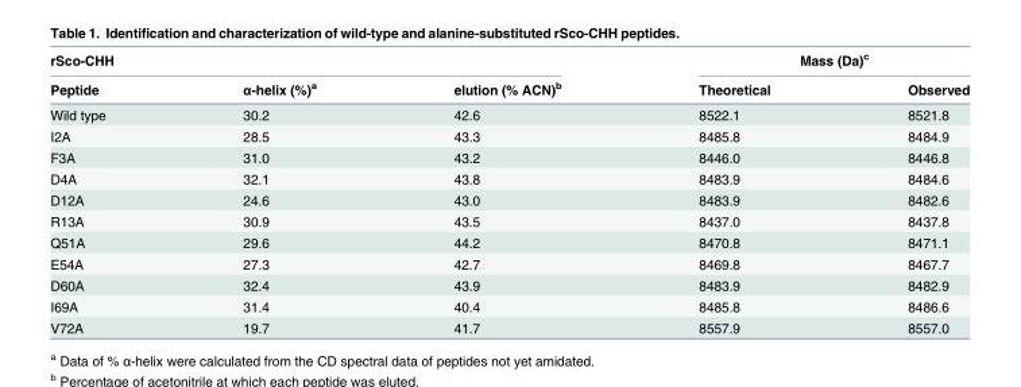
<table><thead><tr><td colspan="3">rSco-CHH</td><td colspan="2">Mass (Da)<sup>c</sup></td></tr><tr><td>Peptide</td><td>α-helix (%)<sup>a</sup></td><td>elution (% ACN)<sup>b</sup></td><td>Theoretical</td><td>Observed</td></tr></thead><tbody><tr><td>Wild type</td><td>30.2</td><td>42.6</td><td>8522.1</td><td>8521.8</td></tr><tr><td>I2A</td><td>28.5</td><td>43.3</td><td>8485.8</td><td>8484.9</td></tr><tr><td>F3A</td><td>31.0</td><td>43.2</td><td>8446.0</td><td>8446.8</td></tr><tr><td>D4A</td><td>32.1</td><td>43.8</td><td>8483.9</td><td>8484.6</td></tr><tr><td>D12A</td><td>24.6</td><td>43.0</td><td>8483.9</td><td>8482.6</td></tr><tr><td>R13A</td><td>30.9</td><td>43.5</td><td>8437.0</td><td>8437.8</td></tr><tr><td>Q51A</td><td>29.6</td><td>44.2</td><td>8470.8</td><td>8471.1</td></tr><tr><td>E54A</td><td>27.3</td><td>42.7</td><td>8469.8</td><td>8467.7</td></tr><tr><td>D60A</td><td>32.4</td><td>43.9</td><td>8483.9</td><td>8482.9</td></tr><tr><td>I69A</td><td>31.4</td><td>40.4</td><td>8485.8</td><td>8486.6</td></tr><tr><td>V72A</td><td>19.7</td><td>41.7</td><td>8557.9</td><td>8557.0</td></tr></tbody></table>